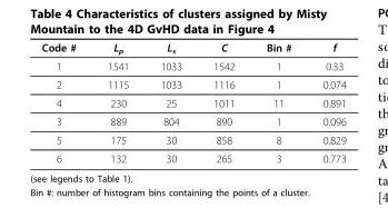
<table><thead><tr><td>Code #</td><td>L<sub>p</sub></td><td>L<sub>s</sub></td><td>C</td><td>Bin #</td><td>f</td></tr></thead><tbody><tr><td>1</td><td>1541</td><td>1033</td><td>1542</td><td>1</td><td>0.33</td></tr><tr><td>2</td><td>1115</td><td>1033</td><td>1116</td><td>1</td><td>0.074</td></tr><tr><td>4</td><td>230</td><td>25</td><td>1011</td><td>11</td><td>0.891</td></tr><tr><td>3</td><td>889</td><td>804</td><td>890</td><td>1</td><td>0.096</td></tr><tr><td>5</td><td>175</td><td>30</td><td>858</td><td>8</td><td>0.829</td></tr><tr><td>6</td><td>132</td><td>30</td><td>265</td><td>3</td><td>0.773</td></tr></tbody></table>